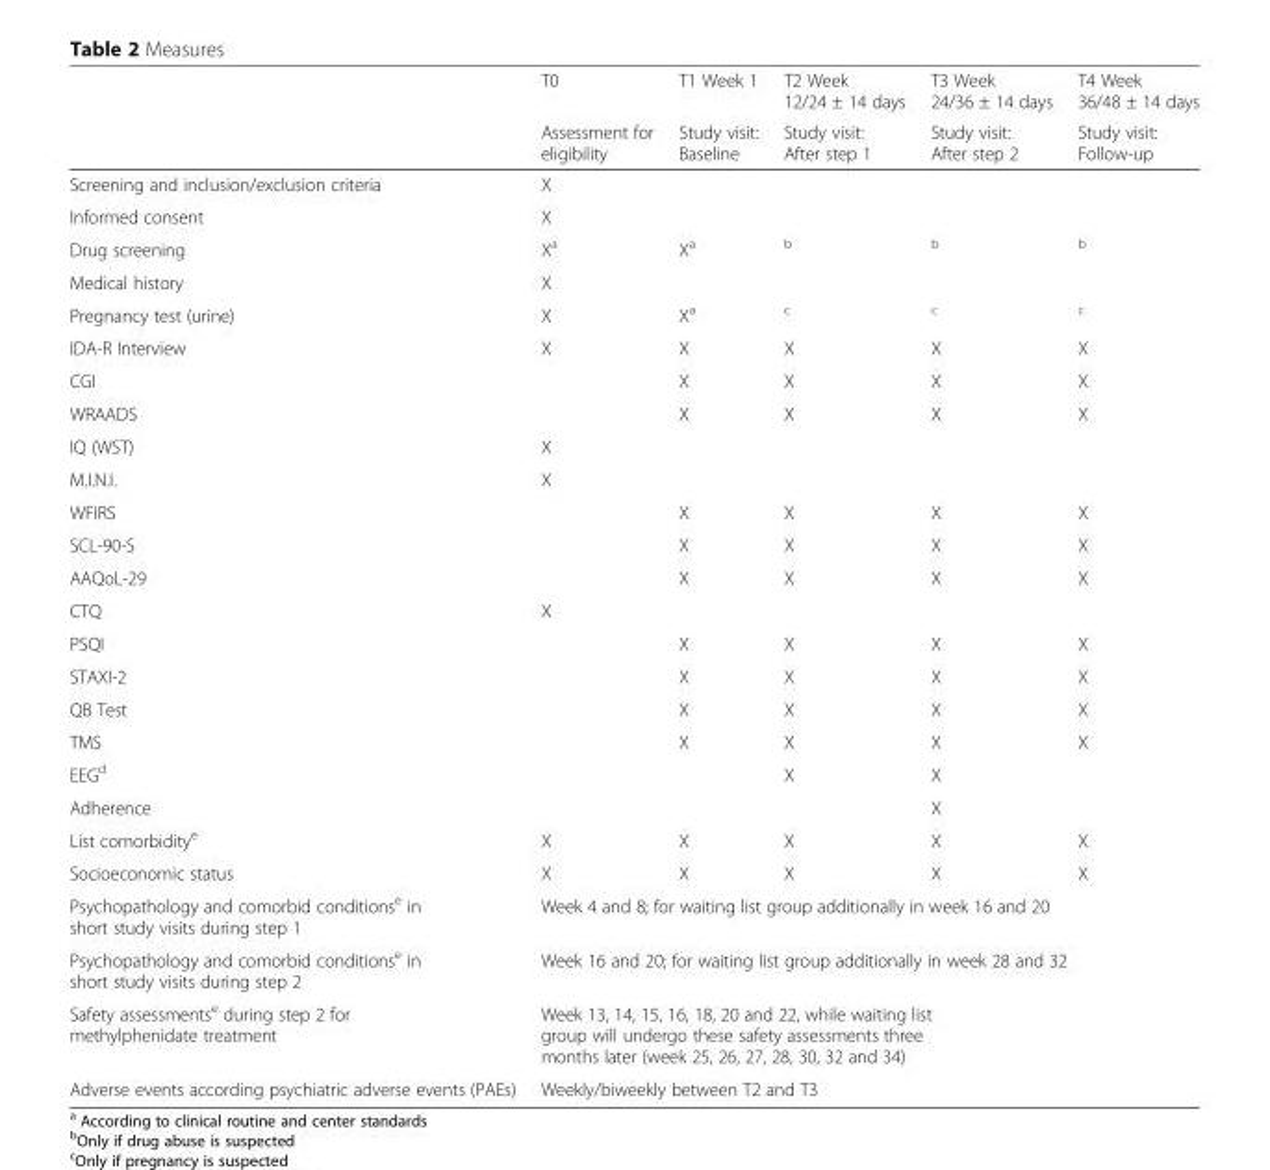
<table><thead><tr><td rowspan="2"></td><td rowspan="2">T0 Assessment for eligibility</td><td rowspan="2">T1 Week 1 Study visit: Baseline</td><td rowspan="2">T2 Week 12/24 ± 14 days Study visit: After step 1</td><td rowspan="2">T3 Week 24/36 ± 14 days Study visit: After step 2</td><td rowspan="2">T4 Week 36/48 ± 14 days Study visit: Follow-up</td></tr><tr></tr></thead><tbody><tr><td>Screening and inclusion/exclusion criteria</td><td>X</td><td></td><td></td><td></td><td></td></tr><tr><td>Informed consent</td><td>X</td><td></td><td></td><td></td><td></td></tr><tr><td>Drug screening</td><td>X<sup>a</sup></td><td>X<sup>a</sup></td><td><sup>b</sup></td><td><sup>b</sup></td><td><sup>b</sup></td></tr><tr><td>Medical history</td><td>X</td><td></td><td></td><td></td><td></td></tr><tr><td>Pregnancy test (urine)</td><td>X</td><td>X<sup>a</sup></td><td><sup>c</sup></td><td><sup>c</sup></td><td><sup>c</sup></td></tr><tr><td>IDA-R Interview</td><td>X</td><td>X</td><td>X</td><td>X</td><td>X</td></tr><tr><td>CGI</td><td></td><td>X</td><td>X</td><td>X</td><td>X</td></tr><tr><td>WRAADS</td><td></td><td>X</td><td>X</td><td>X</td><td>X</td></tr><tr><td>IQ (WST)</td><td>X</td><td></td><td></td><td></td><td></td></tr><tr><td>M.I.N.I.</td><td>X</td><td></td><td></td><td></td><td></td></tr><tr><td>WFIRS</td><td></td><td>X</td><td>X</td><td>X</td><td>X</td></tr><tr><td>SCL-90-S</td><td></td><td>X</td><td>X</td><td>X</td><td>X</td></tr><tr><td>AAQoL-29</td><td></td><td>X</td><td>X</td><td>X</td><td>X</td></tr><tr><td>CTQ</td><td>X</td><td></td><td></td><td></td><td></td></tr><tr><td>PSQI</td><td></td><td>X</td><td>X</td><td>X</td><td>X</td></tr><tr><td>STAXI-2</td><td></td><td>X</td><td>X</td><td>X</td><td>X</td></tr><tr><td>QB Test</td><td></td><td>X</td><td>X</td><td>X</td><td>X</td></tr><tr><td>TMS</td><td></td><td>X</td><td>X</td><td>X</td><td>X</td></tr><tr><td>EEG<sup>d</sup></td><td></td><td></td><td>X</td><td>X</td><td></td></tr><tr><td>Adherence</td><td></td><td></td><td></td><td>X</td><td></td></tr><tr><td>List comorbidity<sup>e</sup></td><td>X</td><td>X</td><td>X</td><td>X</td><td>X</td></tr><tr><td>Socioeconomic status</td><td>X</td><td>X</td><td>X</td><td>X</td><td>X</td></tr><tr><td>Psychopathology and comorbid conditions<sup>e</sup> in short study visits during step 1</td><td colspan="5">Week 4 and 8; for waiting list group additionally in week 16 and 20</td></tr><tr><td>Psychopathology and comorbid conditions<sup>e</sup> in short study visits during step 2</td><td colspan="5">Week 16 and 20; for waiting list group additionally in week 28 and 32</td></tr><tr><td>Safety assessments<sup>e</sup> during step 2 for methylphenidate treatment</td><td colspan="5">Week 13, 14, 15, 16, 18, 20 and 22, while waiting list group will undergo these safety assessments three months later (week 25, 26, 27, 28, 30, 32 and 34)</td></tr><tr><td>Adverse events according psychiatric adverse events (PAEs)</td><td colspan="5">Weekly/biweekly between T2 and T3</td></tr></tbody></table>